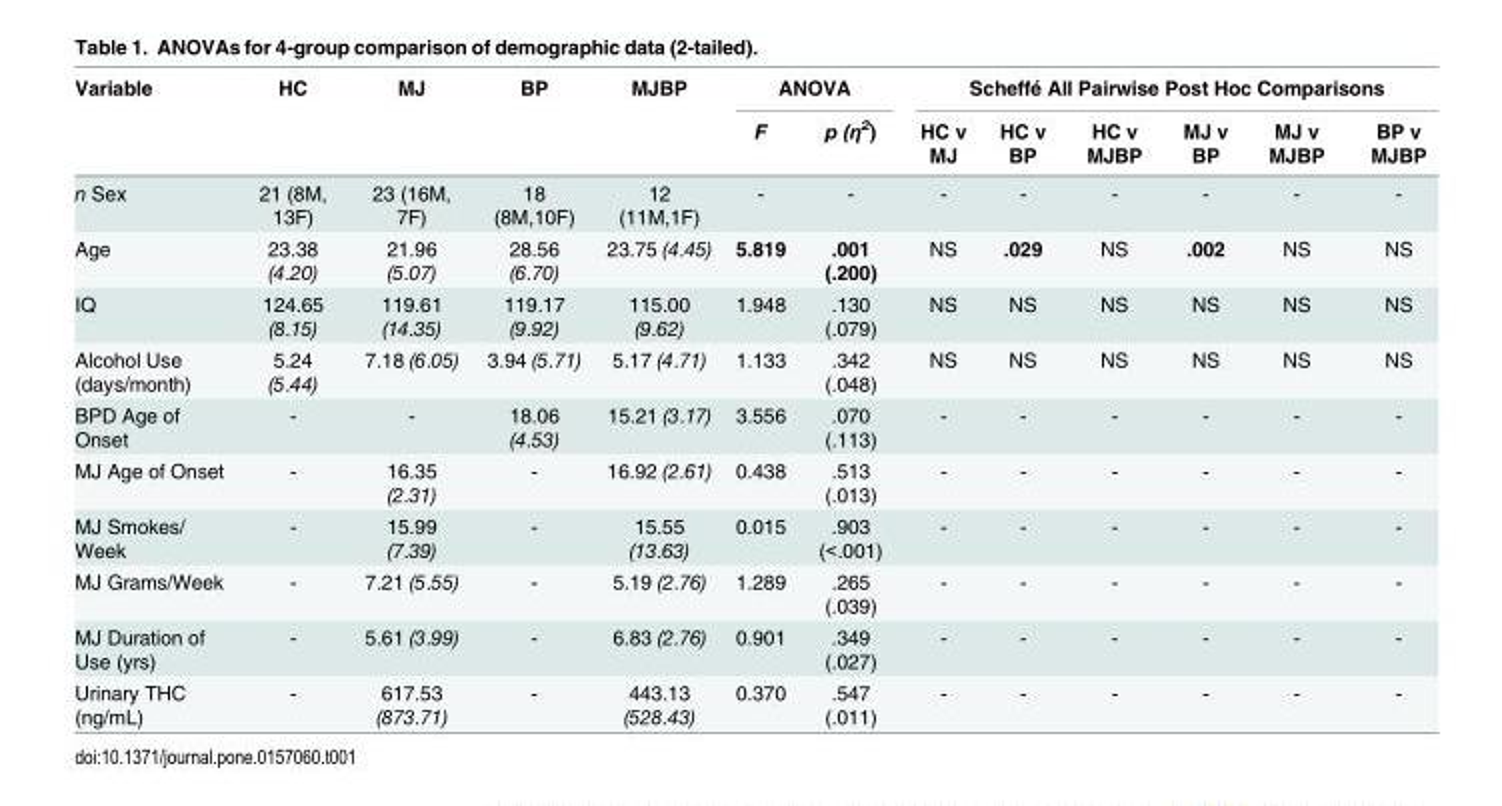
<table><thead><tr><td rowspan="2">Variable</td><td rowspan="2">HC</td><td rowspan="2">MJ</td><td rowspan="2">BP</td><td rowspan="2">MJBP</td><td colspan="2">ANOVA</td><td colspan="6">Scheffé All Pairwise Post Hoc Comparisons</td></tr><tr><td>F</td><td>p (η<sup>2</sup>)</td><td>HC v MJ</td><td>HC v BP</td><td>HC v MJBP</td><td>MJ v BP</td><td>MJ v MJBP</td><td>BP v MJBP</td></tr></thead><tbody><tr><td>n Sex</td><td>21 (8M, 13F)</td><td>23 (16M, 7F)</td><td>18 (8M,10F)</td><td>12 (11M,1F)</td><td>-</td><td>-</td><td>-</td><td>-</td><td>-</td><td>-</td><td>-</td><td>-</td></tr><tr><td>Age</td><td>23.38 (4.20)</td><td>21.96 (5.07)</td><td>28.56 (6.70)</td><td>23.75 (4.45)</td><td>5.819</td><td>.001 (.200)</td><td>NS</td><td>.029</td><td>NS</td><td>.002</td><td>NS</td><td>NS</td></tr><tr><td>IQ</td><td>124.65 (8.15)</td><td>119.61 (14.35)</td><td>119.17 (9.92)</td><td>115.00 (9.62)</td><td>1.948</td><td>.130 (.079)</td><td>NS</td><td>NS</td><td>NS</td><td>NS</td><td>NS</td><td>NS</td></tr><tr><td>Alcohol Use (days/month)</td><td>5.24 (5.44)</td><td>7.18 (6.05)</td><td>3.94 (5.71)</td><td>5.17 (4.71)</td><td>1.133</td><td>.342 (.048)</td><td>NS</td><td>NS</td><td>NS</td><td>NS</td><td>NS</td><td>NS</td></tr><tr><td>BPD Age of Onset</td><td>-</td><td>-</td><td>18.06 (4.53)</td><td>15.21 (3.17)</td><td>3.556</td><td>.070 (.113)</td><td>-</td><td>-</td><td>-</td><td>-</td><td>-</td><td>-</td></tr><tr><td>MJ Age of Onset</td><td>-</td><td>16.35 (2.31)</td><td>-</td><td>16.92 (2.61)</td><td>0.438</td><td>.513 (.013)</td><td>-</td><td>-</td><td>-</td><td>-</td><td>-</td><td>-</td></tr><tr><td>MJ Smokes/ Week</td><td>-</td><td>15.99 (7.39)</td><td>-</td><td>15.55 (13.63)</td><td>0.015</td><td>.903 (&lt;.001)</td><td>-</td><td>-</td><td>-</td><td>-</td><td>-</td><td>-</td></tr><tr><td>MJ Grams/Week</td><td>-</td><td>7.21 (5.55)</td><td>-</td><td>5.19 (2.76)</td><td>1.289</td><td>.265 (.039)</td><td>-</td><td>-</td><td>-</td><td>-</td><td>-</td><td>-</td></tr><tr><td>MJ Duration of Use (yrs)</td><td>-</td><td>5.61 (3.99)</td><td>-</td><td>6.83 (2.76)</td><td>0.901</td><td>.349 (.027)</td><td>-</td><td>-</td><td>-</td><td>-</td><td>-</td><td>-</td></tr><tr><td>Urinary THC (ng/mL)</td><td>-</td><td>617.53 (873.71)</td><td>-</td><td>443.13 (528.43)</td><td>0.370</td><td>.547 (.011)</td><td>-</td><td>-</td><td>-</td><td>-</td><td>-</td><td>-</td></tr></tbody></table>